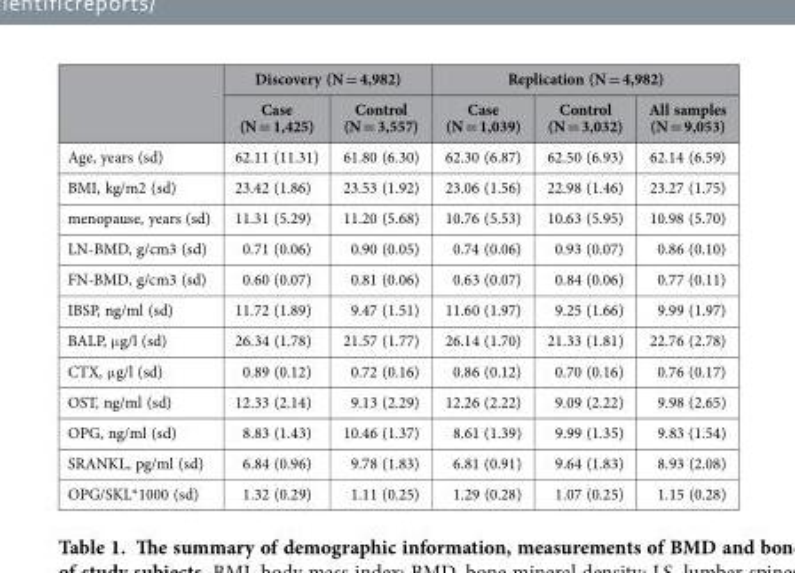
<table><thead><tr><td rowspan="2"></td><td colspan="2">Discovery (N = 4,982)</td><td colspan="3">Replication (N = 4,982)</td></tr><tr><td>Case (N = 1,425)</td><td>Control (N = 3,557)</td><td>Case (N = 1,039)</td><td>Control (N = 3,032)</td><td>All samples (N = 9,053)</td></tr></thead><tbody><tr><td>Age, years (sd)</td><td>62.11 (11.31)</td><td>61.80 (6.30)</td><td>62.30 (6.87)</td><td>62.50 (6.93)</td><td>62.14 (6.59)</td></tr><tr><td>BMI, kg/m2 (sd)</td><td>23.42 (1.86)</td><td>23.53 (1.92)</td><td>23.06 (1.56)</td><td>22.98 (1.46)</td><td>23.27 (1.75)</td></tr><tr><td>menopause, years (sd)</td><td>11.31 (5.29)</td><td>11.20 (5.68)</td><td>10.76 (5.53)</td><td>10.63 (5.95)</td><td>10.98 (5.70)</td></tr><tr><td>LN-BMD, g/cm3 (sd)</td><td>0.71 (0.06)</td><td>0.90 (0.05)</td><td>0.74 (0.06)</td><td>0.93 (0.07)</td><td>0.86 (0.10)</td></tr><tr><td>FN-BMD, g/cm3 (sd)</td><td>0.60 (0.07)</td><td>0.81 (0.06)</td><td>0.63 (0.07)</td><td>0.84 (0.06)</td><td>0.77 (0.11)</td></tr><tr><td>IBSP, ng/ml (sd)</td><td>11.72 (1.89)</td><td>9.47 (1.51)</td><td>11.60 (1.97)</td><td>9.25 (1.66)</td><td>9.99 (1.97)</td></tr><tr><td>BALP, μ g/l (sd)</td><td>26.34 (1.78)</td><td>21.57 (1.77)</td><td>26.14 (1.70)</td><td>21.33 (1.81)</td><td>22.76 (2.78)</td></tr><tr><td>CTX, μ g/l (sd)</td><td>0.89 (0.12)</td><td>0.72 (0.16)</td><td>0.86 (0.12)</td><td>0.70 (0.16)</td><td>0.76 (0.17)</td></tr><tr><td>OST, ng/ml (sd)</td><td>12.33 (2.14)</td><td>9.13 (2.29)</td><td>12.26 (2.22)</td><td>9.09 (2.22)</td><td>9.98 (2.65)</td></tr><tr><td>OPG, ng/ml (sd)</td><td>8.83 (1.43)</td><td>10.46 (1.37)</td><td>8.61 (1.39)</td><td>9.99 (1.35)</td><td>9.83 (1.54)</td></tr><tr><td>SRANKL, pg/ml (sd)</td><td>6.84 (0.96)</td><td>9.78 (1.83)</td><td>6.81 (0.91)</td><td>9.64 (1.83)</td><td>8.93 (2.08)</td></tr><tr><td>OPG/SKL*1000 (sd)</td><td>1.32 (0.29)</td><td>1.11 (0.25)</td><td>1.29 (0.28)</td><td>1.07 (0.25)</td><td>1.15 (0.28)</td></tr></tbody></table>